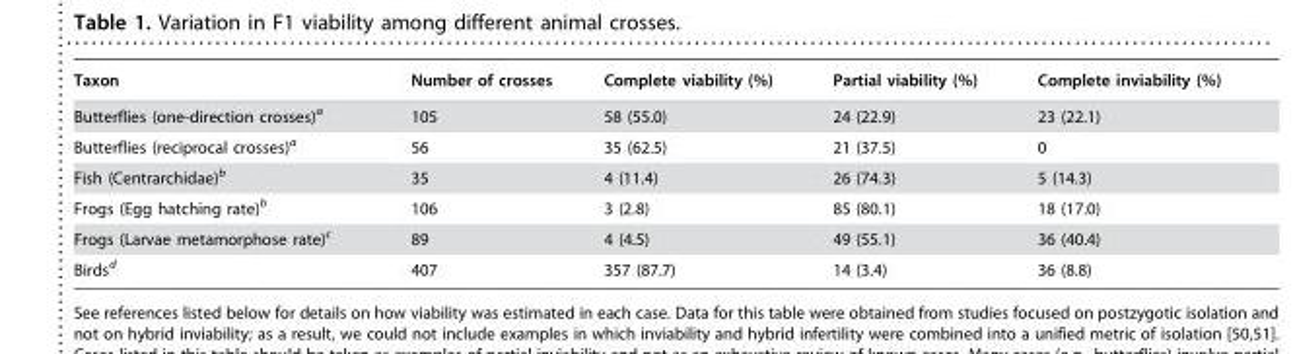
<table><thead><tr><td>Taxon</td><td>Number of crosses</td><td>Complete viability (%)</td><td>Partial viability (%)</td><td>Complete inviability (%)</td></tr></thead><tbody><tr><td>Butterflies (one-direction crosses)<sup>a</sup></td><td>105</td><td>58 (55.0)</td><td>24 (22.9)</td><td>23 (22.1)</td></tr><tr><td>Butterflies (reciprocal crosses)<sup>a</sup></td><td>56</td><td>35 (62.5)</td><td>21 (37.5)</td><td>0</td></tr><tr><td>Fish (Centrarchidae)<sup>b</sup></td><td>35</td><td>4 (11.4)</td><td>26 (74.3)</td><td>5 (14.3)</td></tr><tr><td>Frogs (Egg hatching rate)<sup>b</sup></td><td>106</td><td>3 (2.8)</td><td>85 (80.1)</td><td>18 (17.0)</td></tr><tr><td>Frogs (Larvae metamorphose rate)<sup>c</sup></td><td>89</td><td>4 (4.5)</td><td>49 (55.1)</td><td>36 (40.4)</td></tr><tr><td>Birds<sup>d</sup></td><td>407</td><td>357 (87.7)</td><td>14 (3.4)</td><td>36 (8.8)</td></tr></tbody></table>